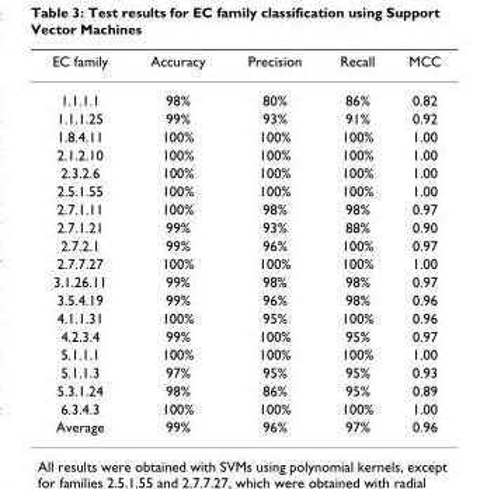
<table><thead><tr><td>EC family</td><td>Accuracy</td><td>Precision</td><td>Recall</td><td>MCC</td></tr></thead><tbody><tr><td>1.1.1.1</td><td>98%</td><td>80%</td><td>86%</td><td>0.82</td></tr><tr><td>1.1.1.25</td><td>99%</td><td>93%</td><td>91%</td><td>0.92</td></tr><tr><td>1.8.4.11</td><td>100%</td><td>100%</td><td>100%</td><td>1.00</td></tr><tr><td>2.1.2.10</td><td>100%</td><td>100%</td><td>100%</td><td>1.00</td></tr><tr><td>2.3.2.6</td><td>100%</td><td>100%</td><td>100%</td><td>1.00</td></tr><tr><td>2.5.1.55</td><td>100%</td><td>100%</td><td>100%</td><td>1.00</td></tr><tr><td>2.7.1.11</td><td>100%</td><td>98%</td><td>98%</td><td>0.97</td></tr><tr><td>2.7.1.21</td><td>99%</td><td>93%</td><td>88%</td><td>0.90</td></tr><tr><td>2.7.2.1</td><td>99%</td><td>96%</td><td>100%</td><td>0.97</td></tr><tr><td>2.7.7.27</td><td>100%</td><td>100%</td><td>100%</td><td>1.00</td></tr><tr><td>3.1.26.11</td><td>99%</td><td>98%</td><td>98%</td><td>0.97</td></tr><tr><td>3.5.4.19</td><td>99%</td><td>96%</td><td>98%</td><td>0.96</td></tr><tr><td>4.1.1.31</td><td>100%</td><td>95%</td><td>100%</td><td>0.96</td></tr><tr><td>4.2.3.4</td><td>99%</td><td>100%</td><td>95%</td><td>0.97</td></tr><tr><td>5.1.1.1</td><td>100%</td><td>100%</td><td>100%</td><td>1.00</td></tr><tr><td>5.1.1.3</td><td>97%</td><td>95%</td><td>95%</td><td>0.93</td></tr><tr><td>5.3.1.24</td><td>98%</td><td>86%</td><td>95%</td><td>0.89</td></tr><tr><td>6.3.4.3</td><td>100%</td><td>100%</td><td>100%</td><td>1.00</td></tr><tr><td>Average</td><td>99%</td><td>96%</td><td>97%</td><td>0.96</td></tr></tbody></table>